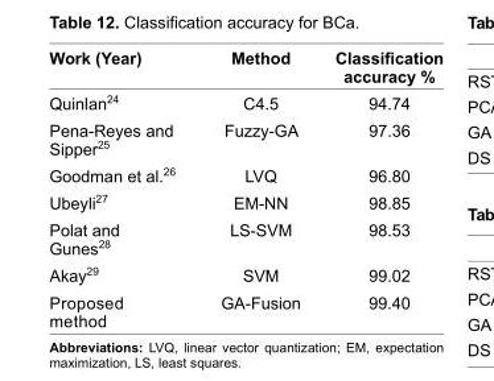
<table><thead><tr><td>Work (Year)</td><td>Method</td><td>Classifi cation accuracy %</td></tr></thead><tbody><tr><td>Quinlan<sup>24</sup></td><td>C4.5</td><td>94.74</td></tr><tr><td>Pena-Reyes and Sipper<sup>25</sup></td><td>Fuzzy-GA</td><td>97.36</td></tr><tr><td>Goodman et al.<sup>26</sup></td><td>LVQ</td><td>96.80</td></tr><tr><td>Ubeyli<sup>27</sup></td><td>EM-NN</td><td>98.85</td></tr><tr><td>Polat and Gunes<sup>28</sup></td><td>LS-SVM</td><td>98.53</td></tr><tr><td>Akay<sup>29</sup></td><td>SVM</td><td>99.02</td></tr><tr><td>Proposed method</td><td>GA-Fusion</td><td>99.40</td></tr></tbody></table>